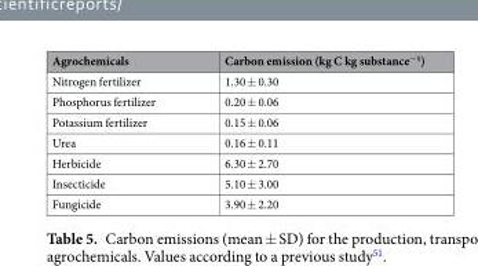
<table><thead><tr><td>Agrochemicals</td><td>Carbon emission (kg C kg substance<sup>−1</sup>)</td></tr></thead><tbody><tr><td>Nitrogen fertilizer</td><td>1.30 ± 0.30</td></tr><tr><td>Phosphorus fertilizer</td><td>0.20 ± 0.06</td></tr><tr><td>Potassium fertilizer</td><td>0.15 ± 0.06</td></tr><tr><td>Urea</td><td>0.16 ± 0.11</td></tr><tr><td>Herbicide</td><td>6.30 ± 2.70</td></tr><tr><td>Insecticide</td><td>5.10 ± 3.00</td></tr><tr><td>Fungicide</td><td>3.90 ± 2.20</td></tr></tbody></table>